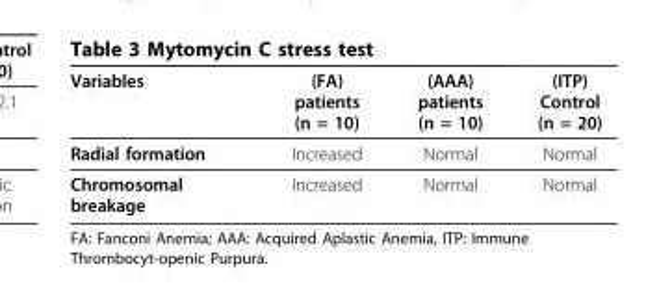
<table><thead><tr><td>Variables</td><td>(FA) patients (n = 10)</td><td>(AAA) patients (n = 10)</td><td>(ITP) Control (n = 20)</td></tr></thead><tbody><tr><td>Radial formation</td><td>Increased</td><td>Normal</td><td>Normal</td></tr><tr><td>Chromosomal breakage</td><td>Increased</td><td>Normal</td><td>Normal</td></tr></tbody></table>